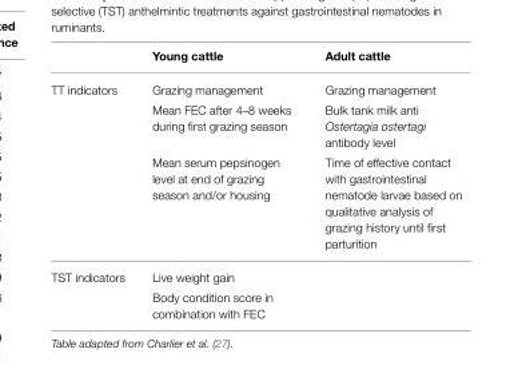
<table><thead><tr><td></td><td>Young cattle</td><td>Adult cattle</td></tr></thead><tbody><tr><td rowspan="3">TT indicators</td><td>Grazing management</td><td>Grazing management</td></tr><tr><td>Mean FEC after 4–8 weeks during first grazing season</td><td>Bulk tank milk anti Ostertagia ostertagi antibody level</td></tr><tr><td>Mean serum pepsinogen level at end of grazing season and/or housing</td><td>Time of effective contact with gastrointestinal nematode larvae based on qualitative analysis of grazing history until first parturition</td></tr><tr><td rowspan="2">TST indicators</td><td>Live weight gain</td><td></td></tr><tr><td>Body condition score in combination with FEC</td><td></td></tr></tbody></table>